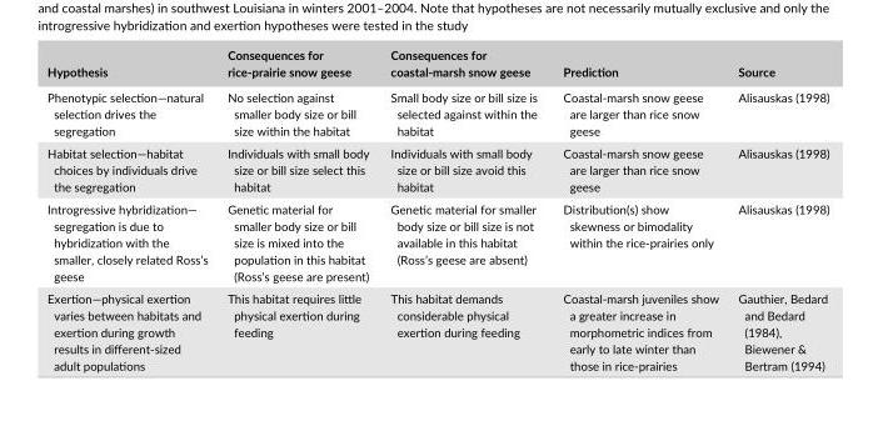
<table><thead><tr><td>Hypothesis</td><td>Consequences for rice-prairie snow geese</td><td>Consequences for coastal-marsh snow geese</td><td>Prediction</td><td>Source</td></tr></thead><tbody><tr><td>Phenotypic selection—natural selection drives the segregation</td><td>No selection against smaller body size or bill size within the habitat</td><td>Small body size or bill size is selected against within the habitat</td><td>Coastal-marsh snow geese are larger than rice snow geese</td><td>Alisauskas (1998)</td></tr><tr><td>Habitat selection—habitat choices by individuals drive the segregation</td><td>Individuals with small body size or bill size select this habitat</td><td>Individuals with small body size or bill size avoid this habitat</td><td>Coastal-marsh snow geese are larger than rice snow geese</td><td>Alisauskas (1998)</td></tr><tr><td>Introgressive hybridization— segregation is due to hybridization with the smaller, closely related Ross’s geese</td><td>Genetic material for smaller body size or bill size is mixed into the population in this habitat (Ross’s geese are present)</td><td>Genetic material for smaller body size or bill size is not available in this habitat (Ross’s geese are absent)</td><td>Distribution(s) show skewness or bimodality within the rice- prairies only</td><td>Alisauskas (1998)</td></tr><tr><td>Exertion—physical exertion varies between habitats and exertion during growth results in different- sized adult populations</td><td>This habitat requires little physical exertion during feeding</td><td>This habitat demands considerable physical exertion during feeding</td><td>Coastal-marsh juveniles show a greater increase in morphometric indices from early to late winter than those in rice- prairies</td><td>Gauthier, Bedard and Bedard (1984), Biewener &amp; Bertram (1994)</td></tr></tbody></table>